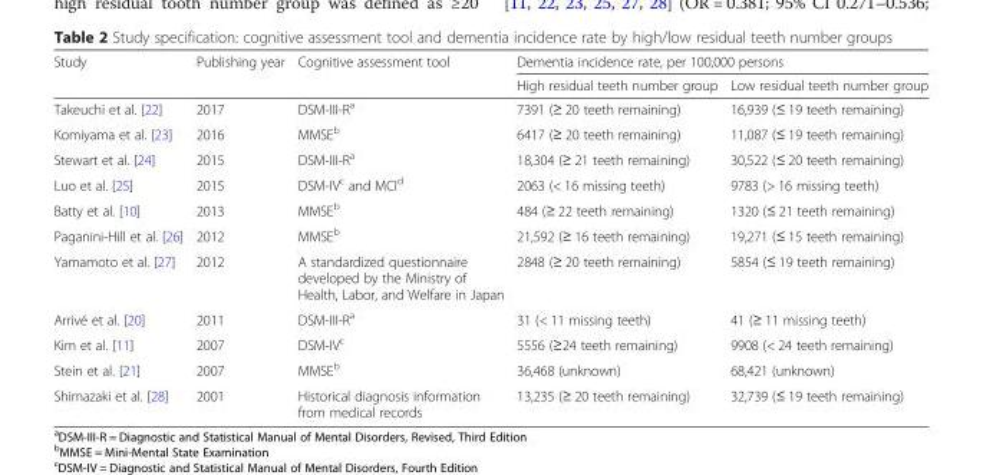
<table><thead><tr><td rowspan="2">Study</td><td rowspan="2">Publishing year</td><td rowspan="2">Cognitive assessment tool</td><td colspan="2">Dementia incidence rate, per 100,000 persons</td></tr><tr><td>High residual teeth number group</td><td>Low residual teeth number group</td></tr></thead><tbody><tr><td>Takeuchi et al. [22]</td><td>2017</td><td>DSM-III-R<sup>a</sup></td><td>7391 (≥ 20 teeth remaining)</td><td>16,939 (≤ 19 teeth remaining)</td></tr><tr><td>Komiyama et al. [23]</td><td>2016</td><td>MMSE<sup>b</sup></td><td>6417 (≥ 20 teeth remaining)</td><td>11,087 (≤ 19 teeth remaining)</td></tr><tr><td>Stewart et al. [24]</td><td>2015</td><td>DSM-III-R<sup>a</sup></td><td>18,304 (≥ 21 teeth remaining)</td><td>30,522 (≤ 20 teeth remaining)</td></tr><tr><td>Luo et al. [25]</td><td>2015</td><td>DSM-IV<sup>c</sup> and MCI<sup>d</sup></td><td>2063 (&lt; 16 missing teeth)</td><td>9783 (&gt; 16 missing teeth)</td></tr><tr><td>Batty et al. [10]</td><td>2013</td><td>MMSE<sup>b</sup></td><td>484 (≥ 22 teeth remaining)</td><td>1320 (≤ 21 teeth remaining)</td></tr><tr><td>Paganini-Hill et al. [26]</td><td>2012</td><td>MMSE<sup>b</sup></td><td>21,592 (≥ 16 teeth remaining)</td><td>19,271 (≤ 15 teeth remaining)</td></tr><tr><td>Yamamoto et al. [27]</td><td>2012</td><td>A standardized questionnaire developed by the Ministry of Health, Labor, and Welfare in Japan</td><td>2848 (≥ 20 teeth remaining)</td><td>5854 (≤ 19 teeth remaining)</td></tr><tr><td>Arrivé et al. [20]</td><td>2011</td><td>DSM-III-R<sup>a</sup></td><td>31 (&lt; 11 missing teeth)</td><td>41 (≥ 11 missing teeth)</td></tr><tr><td>Kim et al. [11]</td><td>2007</td><td>DSM-IV<sup>c</sup></td><td>5556 (≥24 teeth remaining)</td><td>9908 (&lt; 24 teeth remaining)</td></tr><tr><td>Stein et al. [21]</td><td>2007</td><td>MMSE<sup>b</sup></td><td>36,468 (unknown)</td><td>68,421 (unknown)</td></tr><tr><td>Shimazaki et al. [28]</td><td>2001</td><td>Historical diagnosis information from medical records</td><td>13,235 (≥ 20 teeth remaining)</td><td>32,739 (≤ 19 teeth remaining)</td></tr></tbody></table>